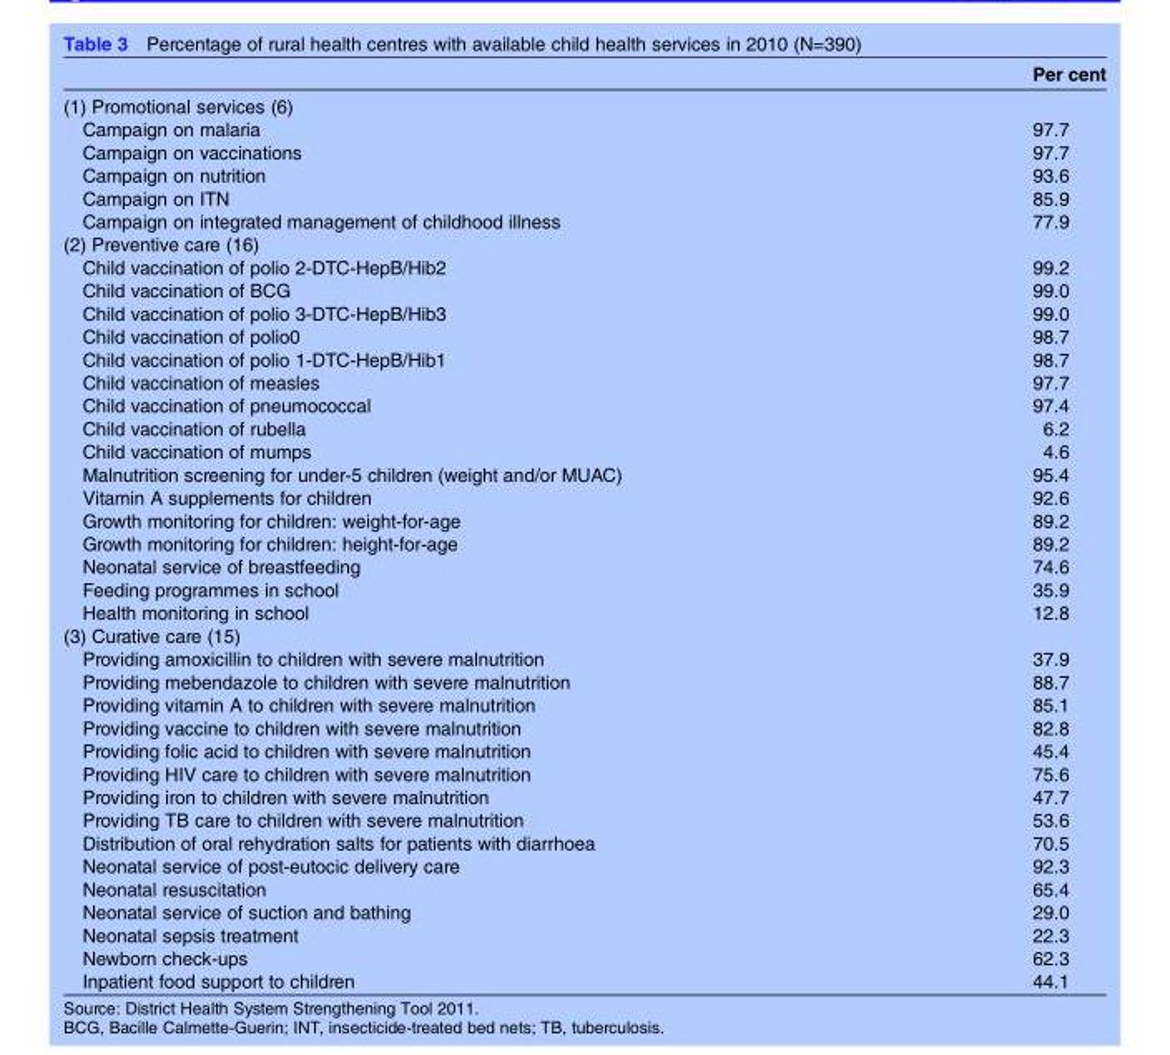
<table><thead><tr><td></td><td>Per cent</td></tr></thead><tbody><tr><td colspan="2">(1) Promotional services (6)</td></tr><tr><td>Campaign on malaria</td><td>97.7</td></tr><tr><td>Campaign on vaccinations</td><td>97.7</td></tr><tr><td>Campaign on nutrition</td><td>93.6</td></tr><tr><td>Campaign on ITN</td><td>85.9</td></tr><tr><td>Campaign on integrated management of childhood illness</td><td>77.9</td></tr><tr><td colspan="2">(2) Preventive care (16)</td></tr><tr><td>Child vaccination of polio 2-DTC-HepB/Hib2</td><td>99.2</td></tr><tr><td>Child vaccination of BCG</td><td>99.0</td></tr><tr><td>Child vaccination of polio 3-DTC-HepB/Hib3</td><td>99.0</td></tr><tr><td>Child vaccination of polio0</td><td>98.7</td></tr><tr><td>Child vaccination of polio 1-DTC-HepB/Hib1</td><td>98.7</td></tr><tr><td>Child vaccination of measles</td><td>97.7</td></tr><tr><td>Child vaccination of pneumococcal</td><td>97.4</td></tr><tr><td>Child vaccination of rubella</td><td>6.2</td></tr><tr><td>Child vaccination of mumps</td><td>4.6</td></tr><tr><td>Malnutrition screening for under-5 children (weight and/or MUAC)</td><td>95.4</td></tr><tr><td>Vitamin A supplements for children</td><td>92.6</td></tr><tr><td>Growth monitoring for children: weight-for-age</td><td>89.2</td></tr><tr><td>Growth monitoring for children: height-for-age</td><td>89.2</td></tr><tr><td>Neonatal service of breastfeeding</td><td>74.6</td></tr><tr><td>Feeding programmes in school</td><td>35.9</td></tr><tr><td>Health monitoring in school</td><td>12.8</td></tr><tr><td colspan="2">(3) Curative care (15)</td></tr><tr><td>Providing amoxicillin to children with severe malnutrition</td><td>37.9</td></tr><tr><td>Providing mebendazole to children with severe malnutrition</td><td>88.7</td></tr><tr><td>Providing vitamin A to children with severe malnutrition</td><td>85.1</td></tr><tr><td>Providing vaccine to children with severe malnutrition</td><td>82.8</td></tr><tr><td>Providing folic acid to children with severe malnutrition</td><td>45.4</td></tr><tr><td>Providing HIV care to children with severe malnutrition</td><td>75.6</td></tr><tr><td>Providing iron to children with severe malnutrition</td><td>47.7</td></tr><tr><td>Providing TB care to children with severe malnutrition</td><td>53.6</td></tr><tr><td>Distribution of oral rehydration salts for patients with diarrhoea</td><td>70.5</td></tr><tr><td>Neonatal service of post-eutocic delivery care</td><td>92.3</td></tr><tr><td>Neonatal resuscitation</td><td>65.4</td></tr><tr><td>Neonatal service of suction and bathing</td><td>29.0</td></tr><tr><td>Neonatal sepsis treatment</td><td>22.3</td></tr><tr><td>Newborn check-ups</td><td>62.3</td></tr><tr><td>Inpatient food support to children</td><td>44.1</td></tr></tbody></table>